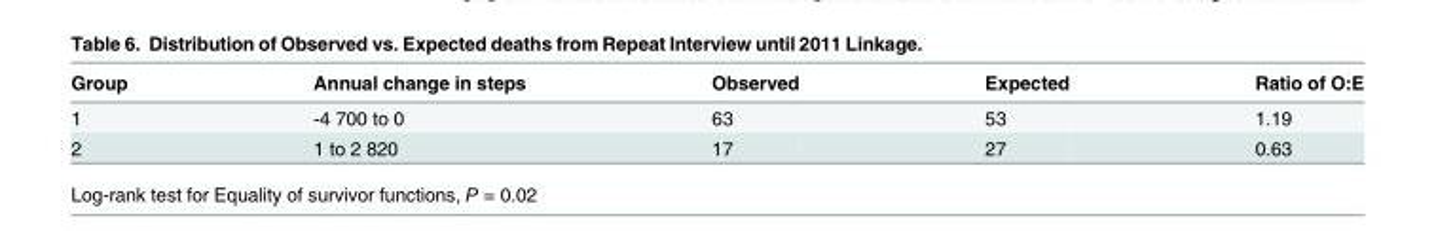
<table><thead><tr><td>Group</td><td>Annual change in steps</td><td>Observed</td><td>Expected</td><td>Ratio of O:E</td></tr></thead><tbody><tr><td>1</td><td>-4 700 to 0</td><td>63</td><td>53</td><td>1.19</td></tr><tr><td>2</td><td>1 to 2 820</td><td>17</td><td>27</td><td>0.63</td></tr></tbody></table>